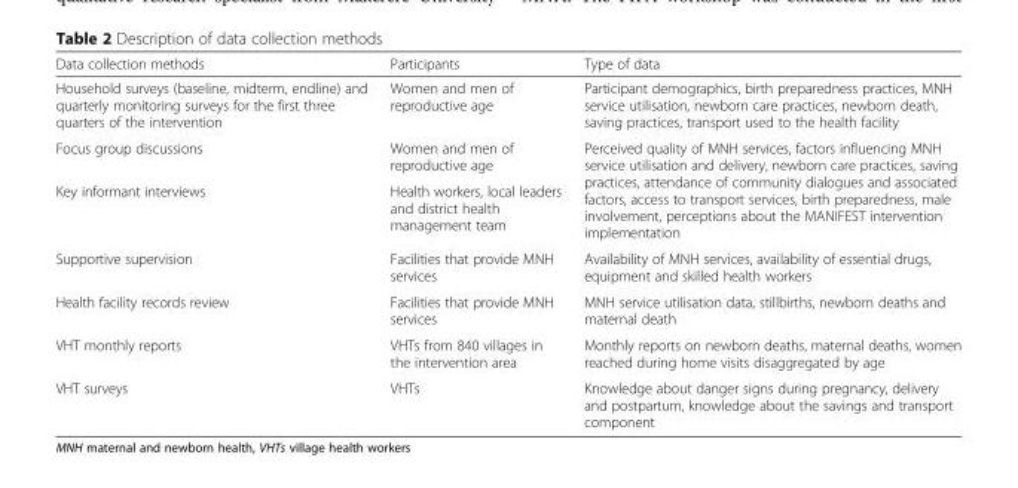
<table><thead><tr><td>Data collection methods</td><td>Participants</td><td>Type of data</td></tr></thead><tbody><tr><td>Household surveys (baseline, midterm, endline) and quarterly monitoring surveys for the first three quarters of the intervention</td><td>Women and men of reproductive age</td><td>Participant demographics, birth preparedness practices, MNH service utilisation, newborn care practices, newborn death, saving practices, transport used to the health facility</td></tr><tr><td>Focus group discussions</td><td>Women and men of reproductive age</td><td rowspan="2">Perceived quality of MNH services, factors influencing MNH service utilisation and delivery, newborn care practices, saving practices, attendance of community dialogues and associated factors, access to transport services, birth preparedness, male involvement, perceptions about the MANIFEST intervention implementation</td></tr><tr><td>Key informant interviews</td><td>Health workers, local leaders and district health management team</td></tr><tr><td>Supportive supervision</td><td>Facilities that provide MNH services</td><td>Availability of MNH services, availability of essential drugs, equipment and skilled health workers</td></tr><tr><td>Health facility records review</td><td>Facilities that provide MNH services</td><td>MNH service utilisation data, stillbirths, newborn deaths and maternal death</td></tr><tr><td>VHT monthly reports</td><td>VHTs from 840 villages in the intervention area</td><td>Monthly reports on newborn deaths, maternal deaths, women reached during home visits disaggregated by age</td></tr><tr><td>VHT surveys</td><td>VHTs</td><td>Knowledge about danger signs during pregnancy, delivery and postpartum, knowledge about the savings and transport component</td></tr></tbody></table>